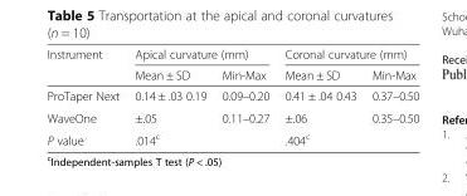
<table><thead><tr><td rowspan="2">Instrument</td><td colspan="2">Apical curvature (mm)</td><td colspan="2">Coronal curvature (mm)</td></tr><tr><td>Mean ± SD</td><td>Min-Max</td><td>Mean ± SD</td><td>Min-Max</td></tr></thead><tbody><tr><td>ProTaper Next</td><td>0.14 ± .03 0.19</td><td>0.09–0.20</td><td>0.41 ± .04 0.43</td><td>0.37–0.50</td></tr><tr><td>WaveOne</td><td>±.05</td><td>0.11–0.27</td><td>±.06</td><td>0.35–0.50</td></tr><tr><td>P value</td><td>.014<sup>c</sup></td><td></td><td>.404<sup>c</sup></td><td></td></tr></tbody></table>